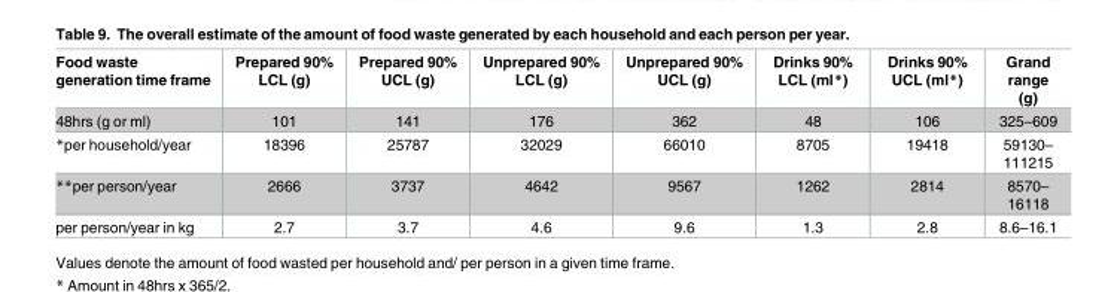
<table><thead><tr><td>Food waste generation time frame</td><td>Prepared 90% LCL (g)</td><td>Prepared 90% UCL (g)</td><td>Unprepared 90% LCL (g)</td><td>Unprepared 90% UCL (g)</td><td>Drinks 90% LCL (ml*)</td><td>Drinks 90% UCL (ml*)</td><td>Grand range (g)</td></tr></thead><tbody><tr><td>48hrs (g or ml)</td><td>101</td><td>141</td><td>176</td><td>362</td><td>48</td><td>106</td><td>325–609</td></tr><tr><td>*per household/year</td><td>18396</td><td>25787</td><td>32029</td><td>66010</td><td>8705</td><td>19418</td><td>59130– 111215</td></tr><tr><td>**per person/year</td><td>2666</td><td>3737</td><td>4642</td><td>9567</td><td>1262</td><td>2814</td><td>8570– 16118</td></tr><tr><td>per person/year in kg</td><td>2.7</td><td>3.7</td><td>4.6</td><td>9.6</td><td>1.3</td><td>2.8</td><td>8.6–16.1</td></tr></tbody></table>